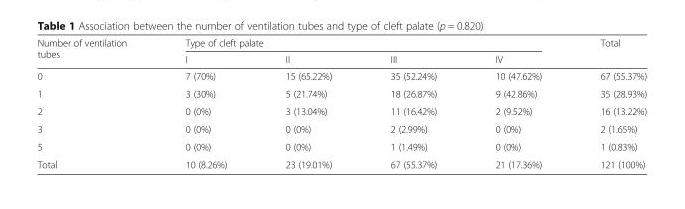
<table><thead><tr><td rowspan="2">Number of ventilation tubes</td><td colspan="4">Type of cleft palate</td><td rowspan="2">Total</td></tr><tr><td>I</td><td>II</td><td>III</td><td>IV</td></tr></thead><tbody><tr><td>0</td><td>7 (70%)</td><td>15 (65.22%)</td><td>35 (52.24%)</td><td>10 (47.62%)</td><td>67 (55.37%)</td></tr><tr><td>1</td><td>3 (30%)</td><td>5 (21.74%)</td><td>18 (26.87%)</td><td>9 (42.86%)</td><td>35 (28.93%)</td></tr><tr><td>2</td><td>0 (0%)</td><td>3 (13.04%)</td><td>11 (16.42%)</td><td>2 (9.52%)</td><td>16 (13.22%)</td></tr><tr><td>3</td><td>0 (0%)</td><td>0 (0%)</td><td>2 (2.99%)</td><td>0 (0%)</td><td>2 (1.65%)</td></tr><tr><td>5</td><td>0 (0%)</td><td>0 (0%)</td><td>1 (1.49%)</td><td>0 (0%)</td><td>1 (0.83%)</td></tr><tr><td>Total</td><td>10 (8.26%)</td><td>23 (19.01%)</td><td>67 (55.37%)</td><td>21 (17.36%)</td><td>121 (100%)</td></tr></tbody></table>